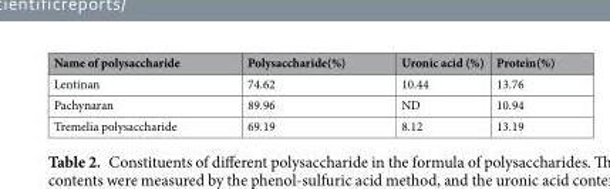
<table><thead><tr><td>Name of polysaccharide</td><td>Polysaccharide(%)</td><td>Uronic acid (%)</td><td>Protein(%)</td></tr></thead><tbody><tr><td>Lentinan</td><td>74.62</td><td>10.44</td><td>13.76</td></tr><tr><td>Pachynaran</td><td>89.96</td><td>ND</td><td>10.94</td></tr><tr><td>Tremelia polysaccharide</td><td>69.19</td><td>8.12</td><td>13.19</td></tr></tbody></table>